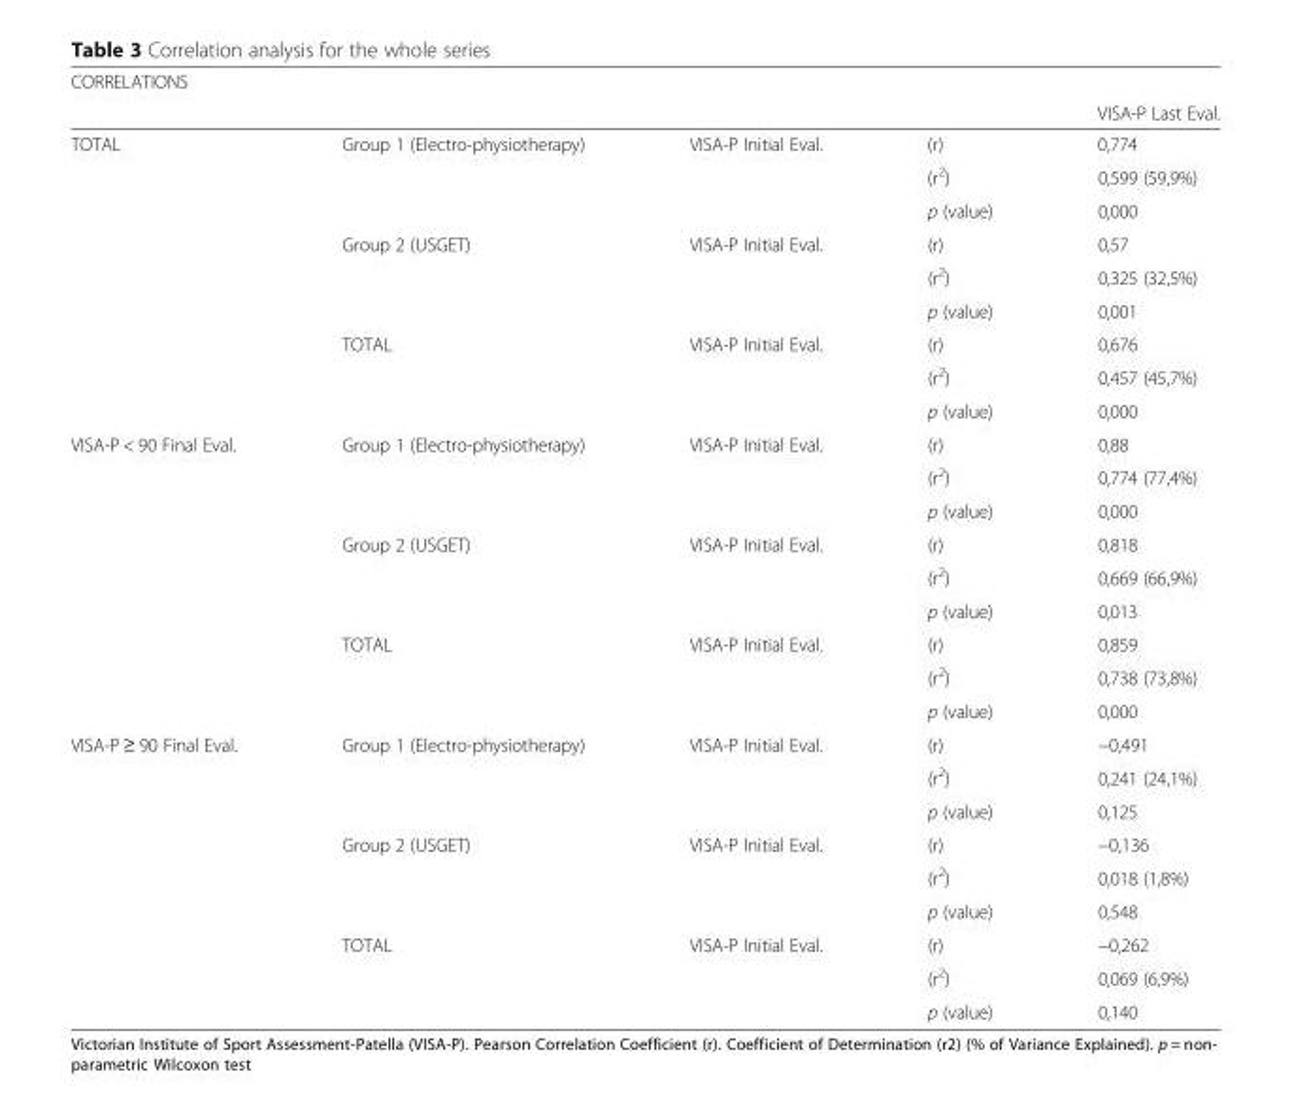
<table><thead><tr><td rowspan="2">CORRELATIONS</td><td rowspan="2"></td><td rowspan="2"></td><td rowspan="2"></td><td rowspan="2">VISA-P Last Eval.</td></tr><tr></tr></thead><tbody><tr><td rowspan="9">TOTAL</td><td rowspan="3">Group 1 (Electro-physiotherapy)</td><td rowspan="3">VISA-P Initial Eval.</td><td>(r)</td><td>0,774</td></tr><tr><td>(r<sup>2</sup>)</td><td>0,599 (59,9%)</td></tr><tr><td>p (value)</td><td>0,000</td></tr><tr><td rowspan="3">Group 2 (USGET)</td><td rowspan="3">VISA-P Initial Eval.</td><td>(r)</td><td>0,57</td></tr><tr><td>(r<sup>2</sup>)</td><td>0,325 (32,5%)</td></tr><tr><td>p (value)</td><td>0,001</td></tr><tr><td rowspan="3">TOTAL</td><td rowspan="3">VISA-P Initial Eval.</td><td>(r)</td><td>0,676</td></tr><tr><td>(r<sup>2</sup>)</td><td>0,457 (45,7%)</td></tr><tr><td>p (value)</td><td>0,000</td></tr><tr><td rowspan="9">VISA-P &lt; 90 Final Eval.</td><td rowspan="3">Group 1 (Electro-physiotherapy)</td><td rowspan="3">VISA-P Initial Eval.</td><td>(r)</td><td>0,88</td></tr><tr><td>(r<sup>2</sup>)</td><td>0,774 (77,4%)</td></tr><tr><td>p (value)</td><td>0,000</td></tr><tr><td rowspan="3">Group 2 (USGET)</td><td rowspan="3">VISA-P Initial Eval.</td><td>(r)</td><td>0,818</td></tr><tr><td>(r<sup>2</sup>)</td><td>0,669 (66,9%)</td></tr><tr><td>p (value)</td><td>0,013</td></tr><tr><td rowspan="3">TOTAL</td><td rowspan="3">VISA-P Initial Eval.</td><td>(r)</td><td>0,859</td></tr><tr><td>(r<sup>2</sup>)</td><td>0,738 (73,8%)</td></tr><tr><td>p (value)</td><td>0,000</td></tr><tr><td rowspan="9">VISA-P ≥ 90 Final Eval.</td><td rowspan="3">Group 1 (Electro-physiotherapy)</td><td rowspan="3">VISA-P Initial Eval.</td><td>(r)</td><td>−0,491</td></tr><tr><td>(r<sup>2</sup>)</td><td>0,241 (24,1%)</td></tr><tr><td>p (value)</td><td>0,125</td></tr><tr><td rowspan="3">Group 2 (USGET)</td><td rowspan="3">VISA-P Initial Eval.</td><td>(r)</td><td>−0,136</td></tr><tr><td>(r<sup>2</sup>)</td><td>0,018 (1,8%)</td></tr><tr><td>p (value)</td><td>0,548</td></tr><tr><td rowspan="3">TOTAL</td><td rowspan="3">VISA-P Initial Eval.</td><td>(r)</td><td>−0,262</td></tr><tr><td>(r<sup>2</sup>)</td><td>0,069 (6,9%)</td></tr><tr><td>p (value)</td><td>0,140</td></tr></tbody></table>